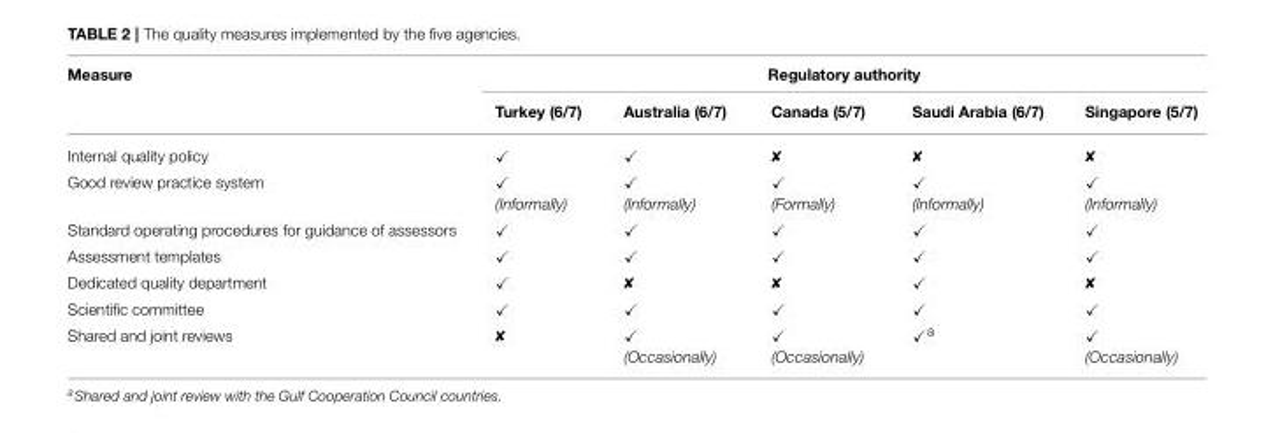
<table><thead><tr><td rowspan="2">Measure</td><td colspan="5">Regulatory authority</td></tr><tr><td>Turkey (6/7)</td><td>Australia (6/7)</td><td>Canada (5/7)</td><td>Saudi Arabia (6/7)</td><td>Singapore (5/7)</td></tr></thead><tbody><tr><td>Internal quality policy</td><td>✓</td><td>✓</td><td></td><td></td><td></td></tr><tr><td>Good review practice system</td><td>✓ (Informally)</td><td>✓ (Informally)</td><td>✓ (Formally)</td><td>✓ (Informally)</td><td>✓ (Informally)</td></tr><tr><td>Standard operating procedures for guidance of assessors</td><td>✓</td><td>✓</td><td>✓</td><td>✓</td><td>✓</td></tr><tr><td>Assessment templates</td><td>✓</td><td>✓</td><td>✓</td><td>✓</td><td>✓</td></tr><tr><td>Dedicated quality department</td><td>✓</td><td></td><td></td><td>✓</td><td></td></tr><tr><td>Scientific committee</td><td>✓</td><td>✓</td><td>✓</td><td>✓</td><td>✓</td></tr><tr><td>Shared and joint reviews</td><td></td><td>✓ (Occasionally)</td><td>✓ (Occasionally)</td><td>✓<sup>a</sup></td><td>✓ (Occasionally)</td></tr></tbody></table>